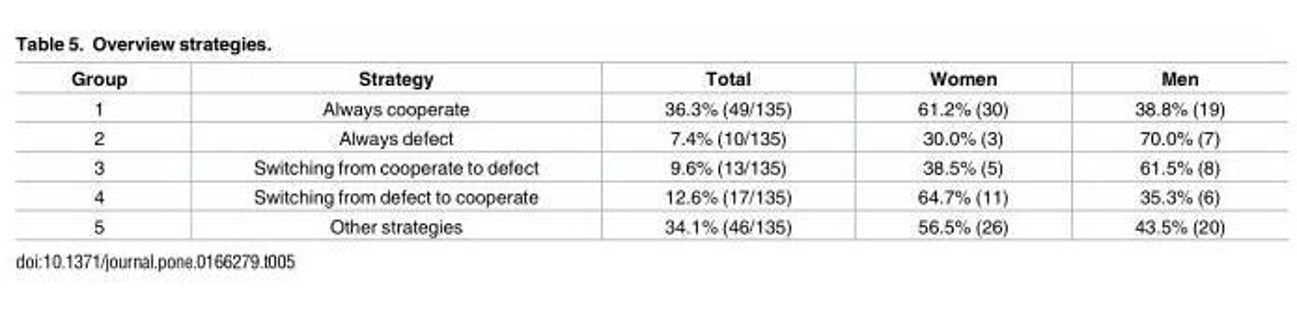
<table><thead><tr><td>Group</td><td>Strategy</td><td>Total</td><td>Women</td><td>Men</td></tr></thead><tbody><tr><td>1</td><td>Always cooperate</td><td>36.3% (49/135)</td><td>61.2% (30)</td><td>38.8% (19)</td></tr><tr><td>2</td><td>Always defect</td><td>7.4% (10/135)</td><td>30.0% (3)</td><td>70.0% (7)</td></tr><tr><td>3</td><td>Switching from cooperate to defect</td><td>9.6% (13/135)</td><td>38.5% (5)</td><td>61.5% (8)</td></tr><tr><td>4</td><td>Switching from defect to cooperate</td><td>12.6% (17/135)</td><td>64.7% (11)</td><td>35.3% (6)</td></tr><tr><td>5</td><td>Other strategies</td><td>34.1% (46/135)</td><td>56.5% (26)</td><td>43.5% (20)</td></tr></tbody></table>